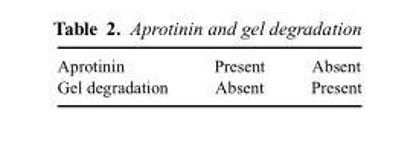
<table><thead><tr><td rowspan="2">Aprotinin Gel degradation</td><td rowspan="2">Present Absent</td><td rowspan="2">Absent Present</td></tr><tr></tr></thead><tbody></tbody></table>